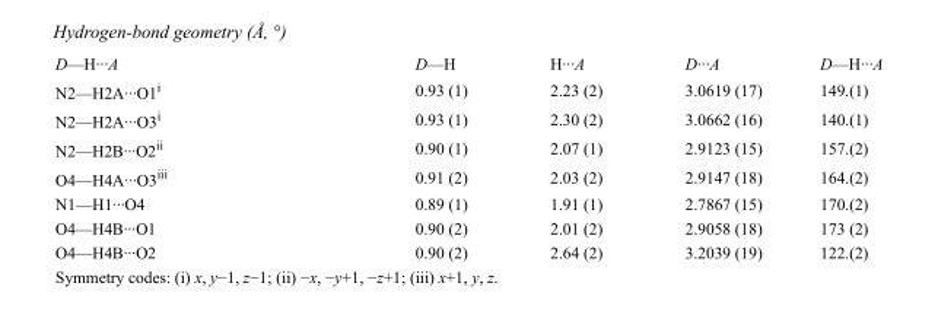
<table><tbody><tr><td>D—H···A</td><td>D—H</td><td>H···A</td><td>D···A</td><td>D—H···A</td></tr><tr><td>N2—H2A···O1<sup>i</sup></td><td>0.93 (1)</td><td>2.23 (2)</td><td>3.0619 (17)</td><td>149.(1)</td></tr><tr><td>N2—H2A···O3<sup>i</sup></td><td>0.93 (1)</td><td>2.30 (2)</td><td>3.0662 (16)</td><td>140.(1)</td></tr><tr><td>N2—H2B···O2<sup>ii</sup></td><td>0.90 (1)</td><td>2.07 (1)</td><td>2.9123 (15)</td><td>157.(2)</td></tr><tr><td>O4—H4A···O3<sup>iii</sup></td><td>0.91 (2)</td><td>2.03 (2)</td><td>2.9147 (18)</td><td>164.(2)</td></tr><tr><td>N1—H1···O4</td><td>0.89 (1)</td><td>1.91 (1)</td><td>2.7867 (15)</td><td>170.(2)</td></tr><tr><td>O4—H4B···O1</td><td>0.90 (2)</td><td>2.01 (2)</td><td>2.9058 (18)</td><td>173 (2)</td></tr><tr><td>O4—H4B···O2</td><td>0.90 (2)</td><td>2.64 (2)</td><td>3.2039 (19)</td><td>122.(2)</td></tr></tbody></table>